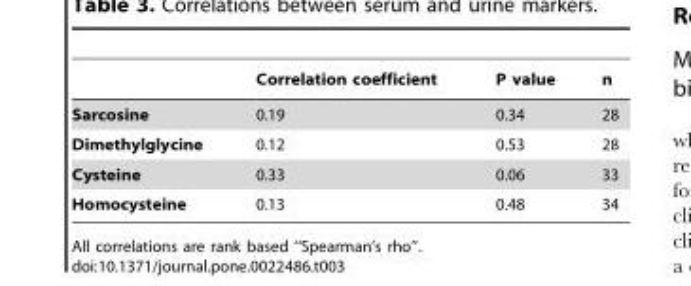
<table><thead><tr><td></td><td>Correlation coefficient</td><td>P value</td><td>n</td></tr></thead><tbody><tr><td>Sarcosine</td><td>0.19</td><td>0.34</td><td>28</td></tr><tr><td>Dimethylglycine</td><td>0.12</td><td>0.53</td><td>28</td></tr><tr><td>Cysteine</td><td>0.33</td><td>0.06</td><td>33</td></tr><tr><td>Homocysteine</td><td>0.13</td><td>0.48</td><td>34</td></tr></tbody></table>